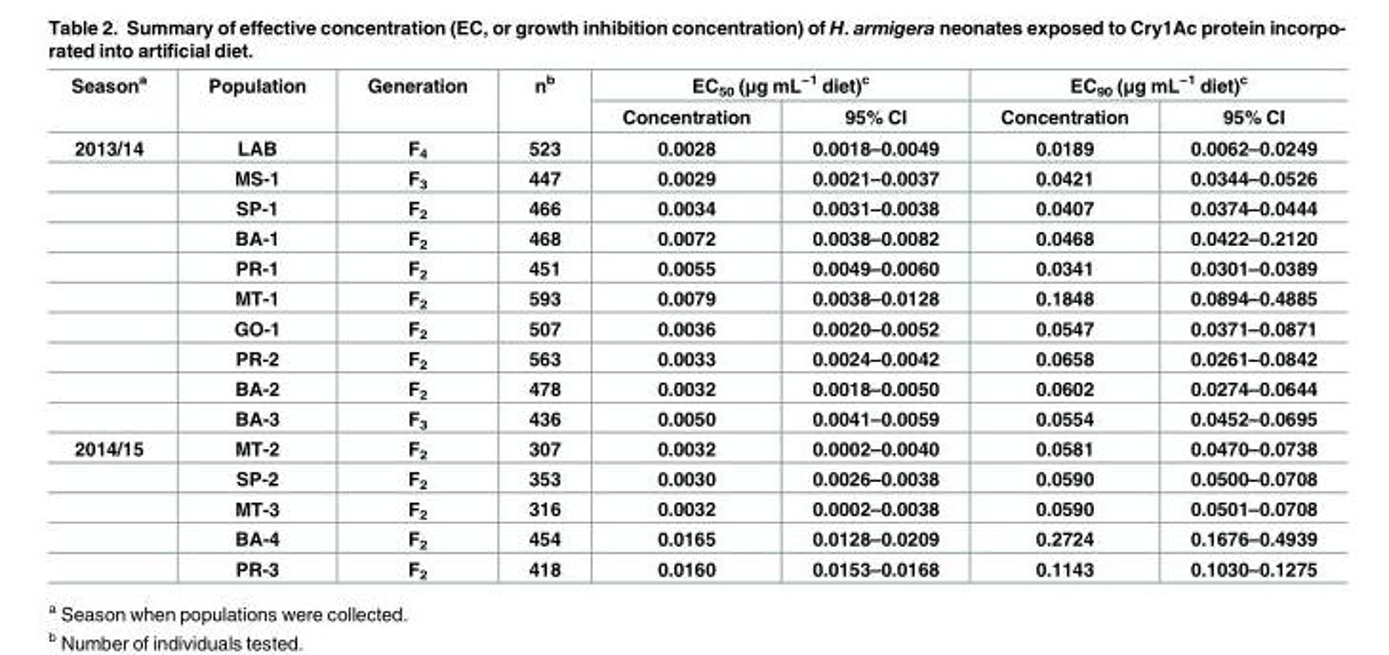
<table><thead><tr><td rowspan="2">Season<sup>a</sup></td><td rowspan="2">Population</td><td rowspan="2">Generation</td><td rowspan="2">n<sup>b</sup></td><td colspan="2">EC<sub>50</sub> (μg mL<sup>−1</sup> diet)<sup>c</sup></td><td colspan="2">EC<sub>90</sub> (μg mL<sup>−1</sup> diet)<sup>c</sup></td></tr><tr><td>Concentration</td><td>95% CI</td><td>Concentration</td><td>95% CI</td></tr></thead><tbody><tr><td rowspan="10">2013/14</td><td>LAB</td><td>F<sub>4</sub></td><td>523</td><td>0.0028</td><td>0.0018–0.0049</td><td>0.0189</td><td>0.0062–0.0249</td></tr><tr><td>MS-1</td><td>F<sub>3</sub></td><td>447</td><td>0.0029</td><td>0.0021–0.0037</td><td>0.0421</td><td>0.0344–0.0526</td></tr><tr><td>SP-1</td><td>F<sub>2</sub></td><td>466</td><td>0.0034</td><td>0.0031–0.0038</td><td>0.0407</td><td>0.0374–0.0444</td></tr><tr><td>BA-1</td><td>F<sub>2</sub></td><td>468</td><td>0.0072</td><td>0.0038–0.0082</td><td>0.0468</td><td>0.0422–0.2120</td></tr><tr><td>PR-1</td><td>F<sub>2</sub></td><td>451</td><td>0.0055</td><td>0.0049–0.0060</td><td>0.0341</td><td>0.0301–0.0389</td></tr><tr><td>MT-1</td><td>F<sub>2</sub></td><td>593</td><td>0.0079</td><td>0.0038–0.0128</td><td>0.1848</td><td>0.0894–0.4885</td></tr><tr><td>GO-1</td><td>F<sub>2</sub></td><td>507</td><td>0.0036</td><td>0.0020–0.0052</td><td>0.0547</td><td>0.0371–0.0871</td></tr><tr><td>PR-2</td><td>F<sub>2</sub></td><td>563</td><td>0.0033</td><td>0.0024–0.0042</td><td>0.0658</td><td>0.0261–0.0842</td></tr><tr><td>BA-2</td><td>F<sub>2</sub></td><td>478</td><td>0.0032</td><td>0.0018–0.0050</td><td>0.0602</td><td>0.0274–0.0644</td></tr><tr><td>BA-3</td><td>F<sub>3</sub></td><td>436</td><td>0.0050</td><td>0.0041–0.0059</td><td>0.0554</td><td>0.0452–0.0695</td></tr><tr><td rowspan="5">2014/15</td><td>MT-2</td><td>F<sub>2</sub></td><td>307</td><td>0.0032</td><td>0.0002–0.0040</td><td>0.0581</td><td>0.0470–0.0738</td></tr><tr><td>SP-2</td><td>F<sub>2</sub></td><td>353</td><td>0.0030</td><td>0.0026–0.0038</td><td>0.0590</td><td>0.0500–0.0708</td></tr><tr><td>MT-3</td><td>F<sub>2</sub></td><td>316</td><td>0.0032</td><td>0.0002–0.0038</td><td>0.0590</td><td>0.0501–0.0708</td></tr><tr><td>BA-4</td><td>F<sub>2</sub></td><td>454</td><td>0.0165</td><td>0.0128–0.0209</td><td>0.2724</td><td>0.1676–0.4939</td></tr><tr><td>PR-3</td><td>F<sub>2</sub></td><td>418</td><td>0.0160</td><td>0.0153–0.0168</td><td>0.1143</td><td>0.1030–0.1275</td></tr></tbody></table>